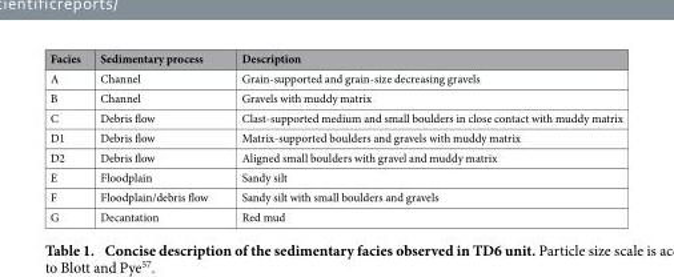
<table><thead><tr><td>Facies</td><td>Sedimentary process</td><td>Description</td></tr></thead><tbody><tr><td>A</td><td>Channel</td><td>Grain-supported and grain-size decreasing gravels</td></tr><tr><td>B</td><td>Channel</td><td>Gravels with muddy matrix</td></tr><tr><td>C</td><td>Debris flow</td><td>Clast-supported medium and small boulders in close contact with muddy matrix</td></tr><tr><td>D1</td><td>Debris flow</td><td>Matrix-supported boulders and gravels with muddy matrix</td></tr><tr><td>D2</td><td>Debris flow</td><td>Aligned small boulders with gravel and muddy matrix</td></tr><tr><td>E</td><td>Floodplain</td><td>Sandy silt</td></tr><tr><td>F</td><td>Floodplain/debris flow</td><td>Sandy silt with small boulders and gravels</td></tr><tr><td>G</td><td>Decantation</td><td>Red mud</td></tr></tbody></table>